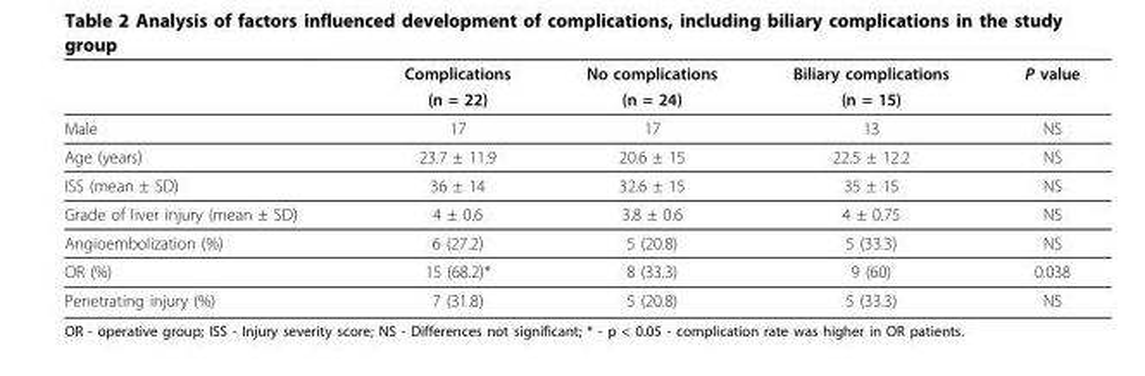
<table><thead><tr><td rowspan="2"></td><td rowspan="2">Complications (n = 22)</td><td rowspan="2">No complications (n = 24)</td><td rowspan="2">Biliary complications (n = 15)</td><td rowspan="2">P value</td></tr><tr></tr></thead><tbody><tr><td>Male</td><td>17</td><td>17</td><td>13</td><td>NS</td></tr><tr><td>Age (years)</td><td>23.7 ± 11.9</td><td>20.6 ± 15</td><td>22.5 ± 12.2</td><td>NS</td></tr><tr><td>ISS (mean ± SD)</td><td>36 ± 14</td><td>32.6 ± 15</td><td>35 ± 15</td><td>NS</td></tr><tr><td>Grade of liver injury (mean ± SD)</td><td>4 ± 0.6</td><td>3.8 ± 0.6</td><td>4 ± 0.75</td><td>NS</td></tr><tr><td>Angioembolization (%)</td><td>6 (27.2)</td><td>5 (20.8)</td><td>5 (33.3)</td><td>NS</td></tr><tr><td>OR (%)</td><td>15 (68.2)*</td><td>8 (33.3)</td><td>9 (60)</td><td>0.038</td></tr><tr><td>Penetrating injury (%)</td><td>7 (31.8)</td><td>5 (20.8)</td><td>5 (33.3)</td><td>NS</td></tr></tbody></table>